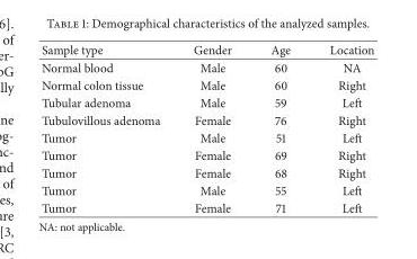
<table><thead><tr><td>Sample type</td><td>Gender</td><td>Age</td><td>Location</td></tr></thead><tbody><tr><td>Normal blood</td><td>Male</td><td>60</td><td>NA</td></tr><tr><td>Normal colon tissue</td><td>Male</td><td>60</td><td>Right</td></tr><tr><td>Tubular adenoma</td><td>Male</td><td>59</td><td>Left</td></tr><tr><td>Tubulovillous adenoma</td><td>Female</td><td>76</td><td>Right</td></tr><tr><td>Tumor</td><td>Male</td><td>51</td><td>Left</td></tr><tr><td>Tumor</td><td>Female</td><td>69</td><td>Right</td></tr><tr><td>Tumor</td><td>Female</td><td>68</td><td>Right</td></tr><tr><td>Tumor</td><td>Male</td><td>55</td><td>Left</td></tr><tr><td>Tumor</td><td>Female</td><td>71</td><td>Left</td></tr></tbody></table>